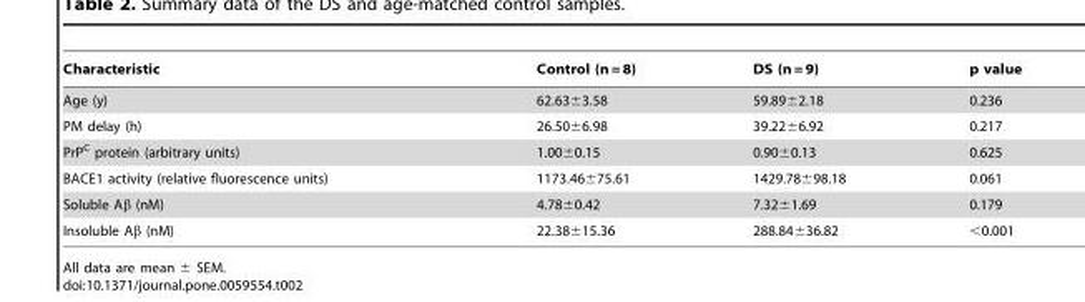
<table><thead><tr><td>Characteristic</td><td>Control (n = 8)</td><td>DS (n = 9)</td><td>p value</td></tr></thead><tbody><tr><td>Age (y)</td><td>62.63±3.58</td><td>59.89±2.18</td><td>0.236</td></tr><tr><td>PM delay (h)</td><td>26.50±6.98</td><td>39.22±6.92</td><td>0.217</td></tr><tr><td>PrP<sup>C</sup> protein (arbitrary units)</td><td>1.00±0.15</td><td>0.90±0.13</td><td>0.625</td></tr><tr><td>BACE1 activity (relative fluorescence units)</td><td>1173.46±75.61</td><td>1429.78±98.18</td><td>0.061</td></tr><tr><td>Soluble Aβ (nM)</td><td>4.78±0.42</td><td>7.32±1.69</td><td>0.179</td></tr><tr><td>Insoluble Aβ (nM)</td><td>22.38±15.36</td><td>288.84±36.82</td><td>&lt;0.001</td></tr></tbody></table>